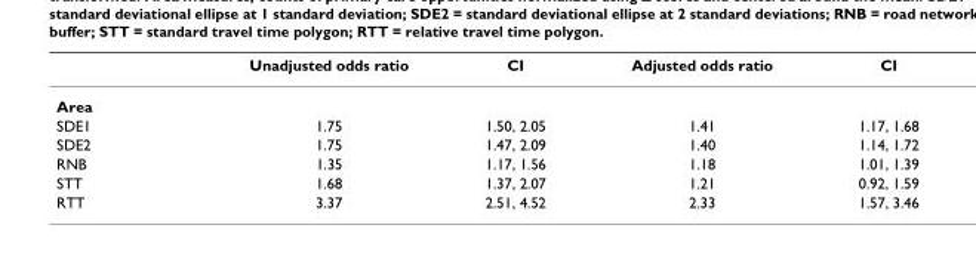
<table><thead><tr><td></td><td>Unadjusted odds ratio</td><td>CI</td><td>Adjusted odds ratio</td><td>CI</td></tr></thead><tbody><tr><td colspan="5">Area</td></tr><tr><td>SDE1</td><td>1.75</td><td>1.50, 2.05</td><td>1.41</td><td>1.17, 1.68</td></tr><tr><td>SDE2</td><td>1.75</td><td>1.47, 2.09</td><td>1.40</td><td>1.14, 1.72</td></tr><tr><td>RNB</td><td>1.35</td><td>1.17, 1.56</td><td>1.18</td><td>1.01, 1.39</td></tr><tr><td>STT</td><td>1.68</td><td>1.37, 2.07</td><td>1.21</td><td>0.92, 1.59</td></tr><tr><td>RTT</td><td>3.37</td><td>2.51, 4.52</td><td>2.33</td><td>1.57, 3.46</td></tr></tbody></table>